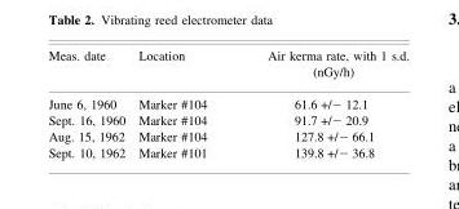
<table><thead><tr><td>Meas. date</td><td>Location</td><td>Air kerma rate, with 1 s.d. (nGy/h)</td></tr></thead><tbody><tr><td>June 6, 1960</td><td>Marker #104</td><td>61.6 +/− 12.1</td></tr><tr><td>Sept. 16, 1960</td><td>Marker #104</td><td>91.7 +/− 20.9</td></tr><tr><td>Aug. 15, 1962</td><td>Marker #104</td><td>127.8 +/− 66.1</td></tr><tr><td>Sept. 10, 1962</td><td>Marker #101</td><td>139.8 +/− 36.8</td></tr></tbody></table>